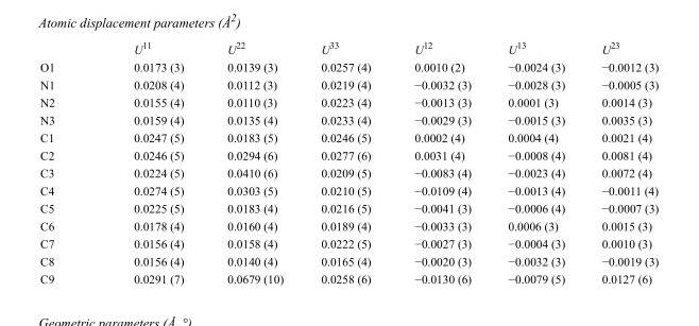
<table><thead><tr><td></td><td>U<sup>11</sup></td><td>U<sup>22</sup></td><td>U<sup>33</sup></td><td>U<sup>12</sup></td><td>U<sup>13</sup></td><td>U<sup>23</sup></td></tr></thead><tbody><tr><td>O1</td><td>0.0173 (3)</td><td>0.0139 (3)</td><td>0.0257 (4)</td><td>0.0010 (2)</td><td>−0.0024 (3)</td><td>−0.0012 (3)</td></tr><tr><td>N1</td><td>0.0208 (4)</td><td>0.0112 (3)</td><td>0.0219 (4)</td><td>−0.0032 (3)</td><td>−0.0028 (3)</td><td>−0.0005 (3)</td></tr><tr><td>N2</td><td>0.0155 (4)</td><td>0.0110 (3)</td><td>0.0223 (4)</td><td>−0.0013 (3)</td><td>0.0001 (3)</td><td>0.0014 (3)</td></tr><tr><td>N3</td><td>0.0159 (4)</td><td>0.0135 (4)</td><td>0.0233 (4)</td><td>−0.0029 (3)</td><td>−0.0015 (3)</td><td>0.0035 (3)</td></tr><tr><td>C1</td><td>0.0247 (5)</td><td>0.0183 (5)</td><td>0.0246 (5)</td><td>0.0002 (4)</td><td>0.0004 (4)</td><td>0.0021 (4)</td></tr><tr><td>C2</td><td>0.0246 (5)</td><td>0.0294 (6)</td><td>0.0277 (6)</td><td>0.0031 (4)</td><td>−0.0008 (4)</td><td>0.0081 (4)</td></tr><tr><td>C3</td><td>0.0224 (5)</td><td>0.0410 (6)</td><td>0.0209 (5)</td><td>−0.0083 (4)</td><td>−0.0023 (4)</td><td>0.0072 (4)</td></tr><tr><td>C4</td><td>0.0274 (5)</td><td>0.0303 (5)</td><td>0.0210 (5)</td><td>−0.0109 (4)</td><td>−0.0013 (4)</td><td>−0.0011 (4)</td></tr><tr><td>C5</td><td>0.0225 (5)</td><td>0.0183 (4)</td><td>0.0216 (5)</td><td>−0.0041 (3)</td><td>−0.0006 (4)</td><td>−0.0007 (3)</td></tr><tr><td>C6</td><td>0.0178 (4)</td><td>0.0160 (4)</td><td>0.0189 (4)</td><td>−0.0033 (3)</td><td>0.0006 (3)</td><td>0.0015 (3)</td></tr><tr><td>C7</td><td>0.0156 (4)</td><td>0.0158 (4)</td><td>0.0222 (5)</td><td>−0.0027 (3)</td><td>−0.0004 (3)</td><td>0.0010 (3)</td></tr><tr><td>C8</td><td>0.0156 (4)</td><td>0.0140 (4)</td><td>0.0165 (4)</td><td>−0.0020 (3)</td><td>−0.0032 (3)</td><td>−0.0019 (3)</td></tr><tr><td>C9</td><td>0.0291 (7)</td><td>0.0679 (10)</td><td>0.0258 (6)</td><td>−0.0130 (6)</td><td>−0.0079 (5)</td><td>0.0127 (6)</td></tr></tbody></table>